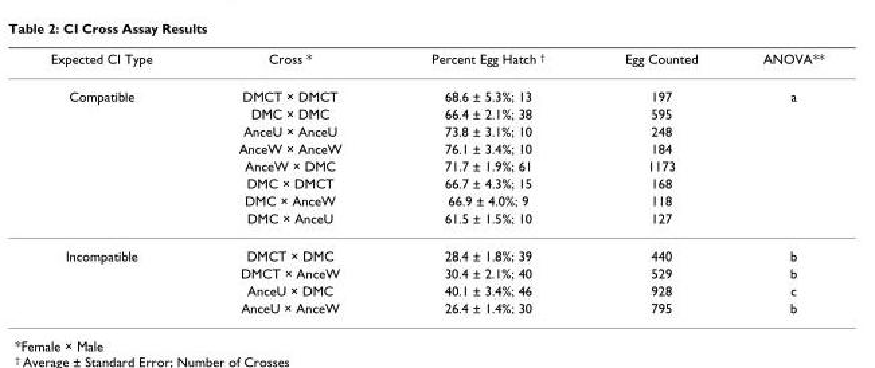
<table><thead><tr><td>Expected CI Type</td><td>Cross *</td><td>Percent Egg Hatch <sup>†</sup></td><td>Egg Counted</td><td>ANOVA**</td></tr></thead><tbody><tr><td rowspan="8">Compatible</td><td>DMCT × DMCT</td><td>68.6 ± 5.3%; 13</td><td>197</td><td>a</td></tr><tr><td>DMC × DMC</td><td>66.4 ± 2.1%; 38</td><td>595</td><td></td></tr><tr><td>AnceU × AnceU</td><td>73.8 ± 3.1%; 10</td><td>248</td><td></td></tr><tr><td>AnceW × AnceW</td><td>76.1 ± 3.4%; 10</td><td>184</td><td></td></tr><tr><td>AnceW × DMC</td><td>71.7 ± 1.9%; 61</td><td>1173</td><td></td></tr><tr><td>DMC × DMCT</td><td>66.7 ± 4.3%; 15</td><td>168</td><td></td></tr><tr><td>DMC × AnceW</td><td>66.9 ± 4.0%; 9</td><td>118</td><td></td></tr><tr><td>DMC × AnceU</td><td>61.5 ± 1.5%; 10</td><td>127</td><td></td></tr><tr><td rowspan="4">Incompatible</td><td>DMCT × DMC</td><td>28.4 ± 1.8%; 39</td><td>440</td><td>b</td></tr><tr><td>DMCT × AnceW</td><td>30.4 ± 2.1%; 40</td><td>529</td><td>b</td></tr><tr><td>AnceU × DMC</td><td>40.1 ± 3.4%; 46</td><td>928</td><td>c</td></tr><tr><td>AnceU × AnceW</td><td>26.4 ± 1.4%; 30</td><td>795</td><td>b</td></tr></tbody></table>